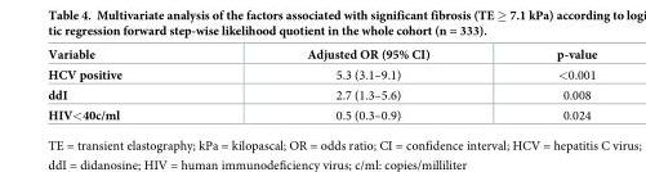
<table><thead><tr><td>Variable</td><td>Adjusted OR (95% CI)</td><td>p-value</td></tr></thead><tbody><tr><td>HCV positive</td><td>5.3 (3.1–9.1)</td><td>&lt;0.001</td></tr><tr><td>ddI</td><td>2.7 (1.3–5.6)</td><td>0.008</td></tr><tr><td>HIV&lt;40c/ml</td><td>0.5 (0.3–0.9)</td><td>0.024</td></tr></tbody></table>